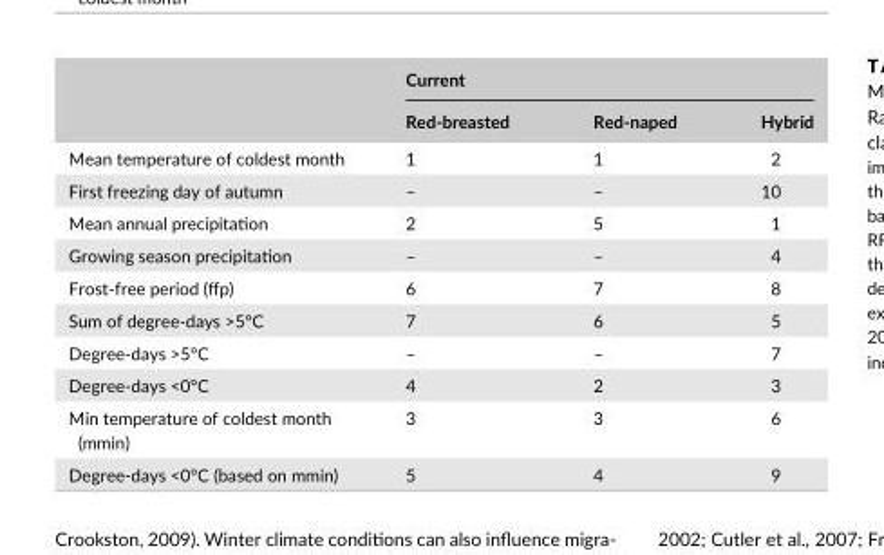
<table><thead><tr><td rowspan="2"></td><td colspan="3">Current</td></tr><tr><td>Red- breasted</td><td>Red- naped</td><td>Hybrid</td></tr></thead><tbody><tr><td>Mean temperature of coldest month</td><td>1</td><td>1</td><td>2</td></tr><tr><td>First freezing day of autumn</td><td>–</td><td>–</td><td>10</td></tr><tr><td>Mean annual precipitation</td><td>2</td><td>5</td><td>1</td></tr><tr><td>Growing season precipitation</td><td>–</td><td>–</td><td>4</td></tr><tr><td>Frost- free period (ffp)</td><td>6</td><td>7</td><td>8</td></tr><tr><td>Sum of degree- days &gt;5°C</td><td>7</td><td>6</td><td>5</td></tr><tr><td>Degree- days &gt;5°C</td><td>–</td><td>–</td><td>7</td></tr><tr><td>Degree- days &lt;0°C</td><td>4</td><td>2</td><td>3</td></tr><tr><td>Min temperature of coldest month (mmin)</td><td>3</td><td>3</td><td>6</td></tr><tr><td>Degree- days &lt;0°C (based on mmin)</td><td>5</td><td>4</td><td>9</td></tr></tbody></table>